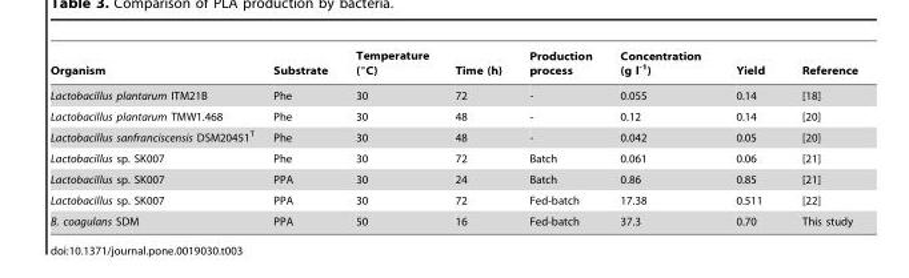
<table><thead><tr><td>Organism</td><td>Substrate</td><td>Temperature (°C)</td><td>Time (h)</td><td>Production process</td><td>Concentration (g l<sup>-1</sup>)</td><td>Yield</td><td>Reference</td></tr></thead><tbody><tr><td>Lactobacillus plantarum ITM21B</td><td>Phe</td><td>30</td><td>72</td><td>-</td><td>0.055</td><td>0.14</td><td>[18]</td></tr><tr><td>Lactobacillus plantarum TMW1.468</td><td>Phe</td><td>30</td><td>48</td><td>-</td><td>0.12</td><td>0.14</td><td>[20]</td></tr><tr><td>Lactobacillus sanfranciscensis DSM20451<sup>T</sup></td><td>Phe</td><td>30</td><td>48</td><td>-</td><td>0.042</td><td>0.05</td><td>[20]</td></tr><tr><td>Lactobacillus sp. SK007</td><td>Phe</td><td>30</td><td>72</td><td>Batch</td><td>0.061</td><td>0.06</td><td>[21]</td></tr><tr><td>Lactobacillus sp. SK007</td><td>PPA</td><td>30</td><td>24</td><td>Batch</td><td>0.86</td><td>0.85</td><td>[21]</td></tr><tr><td>Lactobacillus sp. SK007</td><td>PPA</td><td>30</td><td>72</td><td>Fed-batch</td><td>17.38</td><td>0.511</td><td>[22]</td></tr><tr><td>B. coagulans SDM</td><td>PPA</td><td>50</td><td>16</td><td>Fed-batch</td><td>37.3</td><td>0.70</td><td>This study</td></tr></tbody></table>